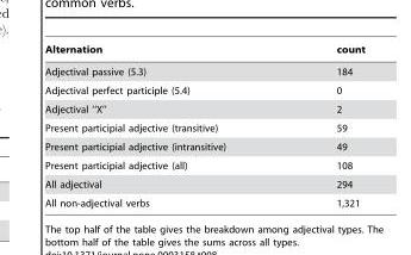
<table><thead><tr><td>Alternation</td><td>count</td></tr></thead><tbody><tr><td>Adjectival passive (5.3)</td><td>184</td></tr><tr><td>Adjectival perfect participle (5.4)</td><td>0</td></tr><tr><td>Adjectival ‘‘X’’</td><td>2</td></tr><tr><td>Present participial adjective (transitive)</td><td>59</td></tr><tr><td>Present participial adjective (intransitive)</td><td>49</td></tr><tr><td>Present participial adjective (all)</td><td>108</td></tr><tr><td>All adjectival</td><td>294</td></tr><tr><td>All non-adjectival verbs</td><td>1,321</td></tr></tbody></table>